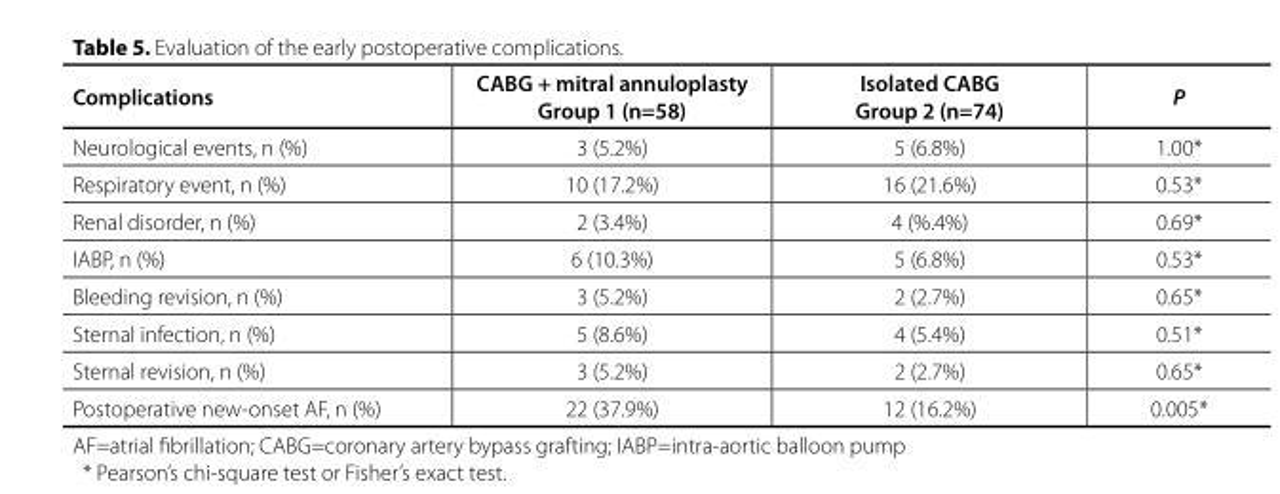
<table><thead><tr><td>Complications</td><td>CABG + mitral annuloplasty Group 1 (n=58)</td><td>Isolated CABG Group 2 (n=74)</td><td>P</td></tr></thead><tbody><tr><td>Neurological events, n (%)</td><td>3 (5.2%)</td><td>5 (6.8%)</td><td>1.00*</td></tr><tr><td>Respiratory event, n (%)</td><td>10 (17.2%)</td><td>16 (21.6%)</td><td>0.53*</td></tr><tr><td>Renal disorder, n (%)</td><td>2 (3.4%)</td><td>4 (%.4%)</td><td>0.69*</td></tr><tr><td>IABP, n (%)</td><td>6 (10.3%)</td><td>5 (6.8%)</td><td>0.53*</td></tr><tr><td>Bleeding revision, n (%)</td><td>3 (5.2%)</td><td>2 (2.7%)</td><td>0.65*</td></tr><tr><td>Sternal infection, n (%)</td><td>5 (8.6%)</td><td>4 (5.4%)</td><td>0.51*</td></tr><tr><td>Sternal revision, n (%)</td><td>3 (5.2%)</td><td>2 (2.7%)</td><td>0.65*</td></tr><tr><td>Postoperative new-onset AF, n (%)</td><td>22 (37.9%)</td><td>12 (16.2%)</td><td>0.005*</td></tr></tbody></table>